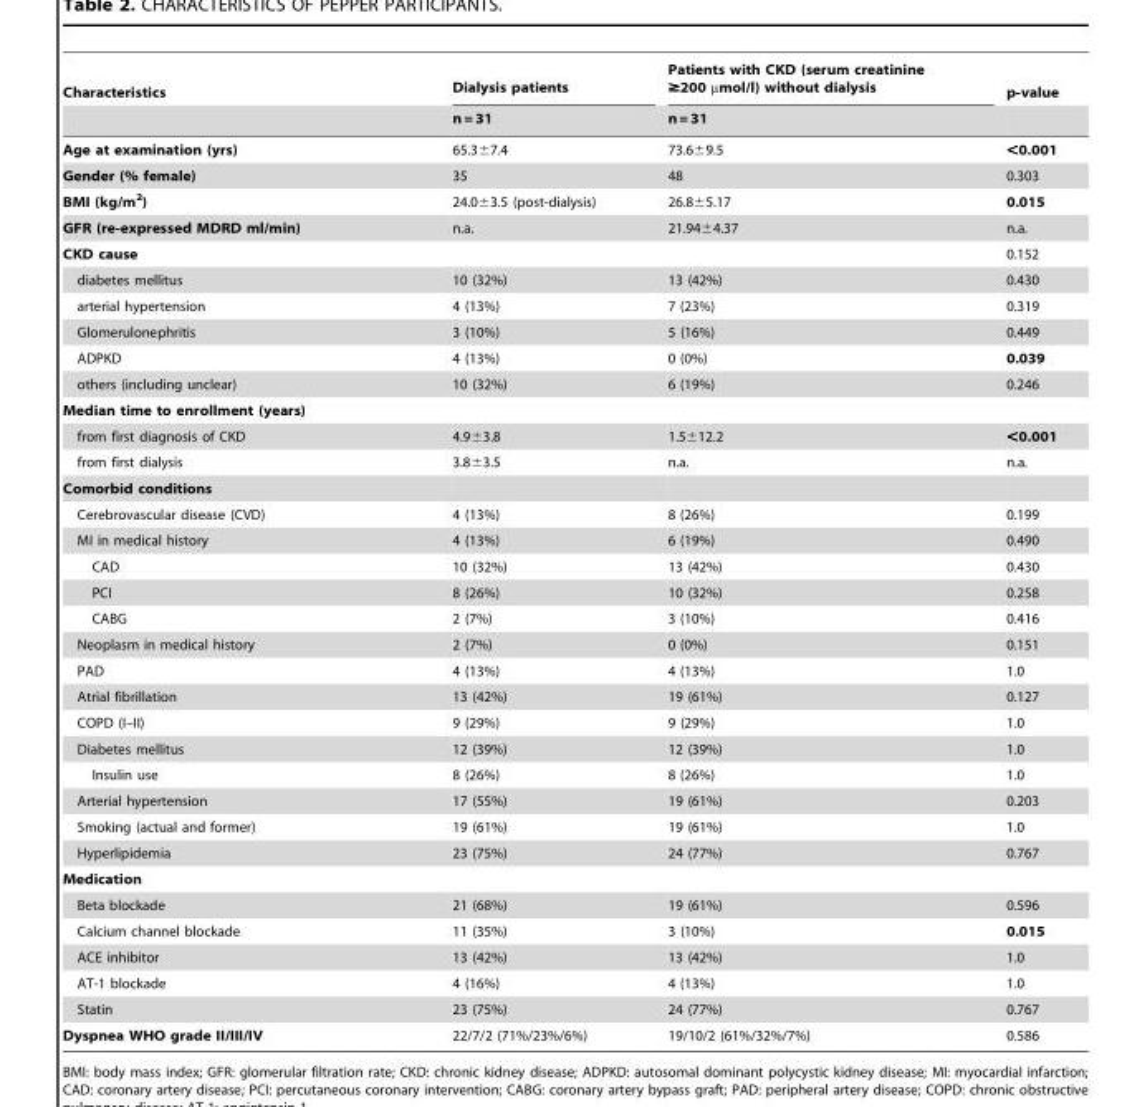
<table><thead><tr><td rowspan="2">Characteristics</td><td rowspan="2">Dialysis patients n = 31</td><td rowspan="2">Patients with CKD (serum creatinine ≥200 µmol/l) without dialysis n = 31</td><td rowspan="2">p-value</td></tr><tr></tr></thead><tbody><tr><td>Age at examination (yrs)</td><td>65.3±7.4</td><td>73.6±9.5</td><td>&lt;0.001</td></tr><tr><td>Gender (% female)</td><td>35</td><td>48</td><td>0.303</td></tr><tr><td>BMI (kg/m<sup>2</sup>)</td><td>24.0±3.5 (post-dialysis)</td><td>26.8±5.17</td><td>0.015</td></tr><tr><td>GFR (re-expressed MDRD ml/min)</td><td>n.a.</td><td>21.94±4.37</td><td>n.a.</td></tr><tr><td>CKD cause</td><td></td><td></td><td>0.152</td></tr><tr><td>diabetes mellitus</td><td>10 (32%)</td><td>13 (42%)</td><td>0.430</td></tr><tr><td>arterial hypertension</td><td>4 (13%)</td><td>7 (23%)</td><td>0.319</td></tr><tr><td>Glomerulonephritis</td><td>3 (10%)</td><td>5 (16%)</td><td>0.449</td></tr><tr><td>ADPKD</td><td>4 (13%)</td><td>0 (0%)</td><td>0.039</td></tr><tr><td>others (including unclear)</td><td>10 (32%)</td><td>6 (19%)</td><td>0.246</td></tr><tr><td colspan="4">Median time to enrollment (years)</td></tr><tr><td>from first diagnosis of CKD</td><td>4.9±3.8</td><td>1.5±12.2</td><td>&lt;0.001</td></tr><tr><td>from first dialysis</td><td>3.8±3.5</td><td>n.a.</td><td>n.a.</td></tr><tr><td colspan="4">Comorbid conditions</td></tr><tr><td>Cerebrovascular disease (CVD)</td><td>4 (13%)</td><td>8 (26%)</td><td>0.199</td></tr><tr><td>MI in medical history</td><td>4 (13%)</td><td>6 (19%)</td><td>0.490</td></tr><tr><td>CAD</td><td>10 (32%)</td><td>13 (42%)</td><td>0.430</td></tr><tr><td>PCI</td><td>8 (26%)</td><td>10 (32%)</td><td>0.258</td></tr><tr><td>CABG</td><td>2 (7%)</td><td>3 (10%)</td><td>0.416</td></tr><tr><td>Neoplasm in medical history</td><td>2 (7%)</td><td>0 (0%)</td><td>0.151</td></tr><tr><td>PAD</td><td>4 (13%)</td><td>4 (13%)</td><td>1.0</td></tr><tr><td>Atrial fibrillation</td><td>13 (42%)</td><td>19 (61%)</td><td>0.127</td></tr><tr><td>COPD (I–II)</td><td>9 (29%)</td><td>9 (29%)</td><td>1.0</td></tr><tr><td>Diabetes mellitus</td><td>12 (39%)</td><td>12 (39%)</td><td>1.0</td></tr><tr><td>Insulin use</td><td>8 (26%)</td><td>8 (26%)</td><td>1.0</td></tr><tr><td>Arterial hypertension</td><td>17 (55%)</td><td>19 (61%)</td><td>0.203</td></tr><tr><td>Smoking (actual and former)</td><td>19 (61%)</td><td>19 (61%)</td><td>1.0</td></tr><tr><td>Hyperlipidemia</td><td>23 (75%)</td><td>24 (77%)</td><td>0.767</td></tr><tr><td colspan="4">Medication</td></tr><tr><td>Beta blockade</td><td>21 (68%)</td><td>19 (61%)</td><td>0.596</td></tr><tr><td>Calcium channel blockade</td><td>11 (35%)</td><td>3 (10%)</td><td>0.015</td></tr><tr><td>ACE inhibitor</td><td>13 (42%)</td><td>13 (42%)</td><td>1.0</td></tr><tr><td>AT-1 blockade</td><td>4 (16%)</td><td>4 (13%)</td><td>1.0</td></tr><tr><td>Statin</td><td>23 (75%)</td><td>24 (77%)</td><td>0.767</td></tr><tr><td>Dyspnea WHO grade II/III/IV</td><td>22/7/2 (71%/23%/6%)</td><td>19/10/2 (61%/32%/7%)</td><td>0.586</td></tr></tbody></table>